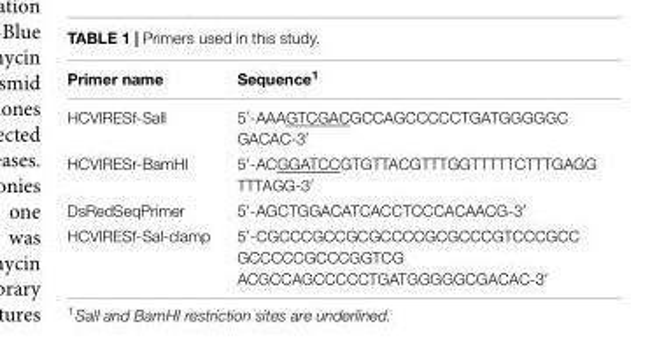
<table><thead><tr><td>Primer name</td><td>Sequence<sup>1</sup></td></tr></thead><tbody><tr><td>HCVIRESf-SalI</td><td>5′-AAAGTCGACGCCAGCCCCCTGATGGGGGC GACAC-3′</td></tr><tr><td>HCVIRESr-BamHI</td><td>5′-ACGGATCCGTGTTACGTTTGGTTTTTCTTTGAGG TTTAGG-3′</td></tr><tr><td>DsRedSeqPrimer</td><td>5′-AGCTGGACATCACCTCCCACAACG-3′</td></tr><tr><td rowspan="2">HCVIRESf-Sal-clamp</td><td>5′-CGCCCGCCGCGCCCCGCGCCCGTCCCGCC GCCCCCGCCCGGTCG</td></tr><tr><td>ACGCCAGCCCCCTGATGGGGGCGACAC-3′</td></tr></tbody></table>